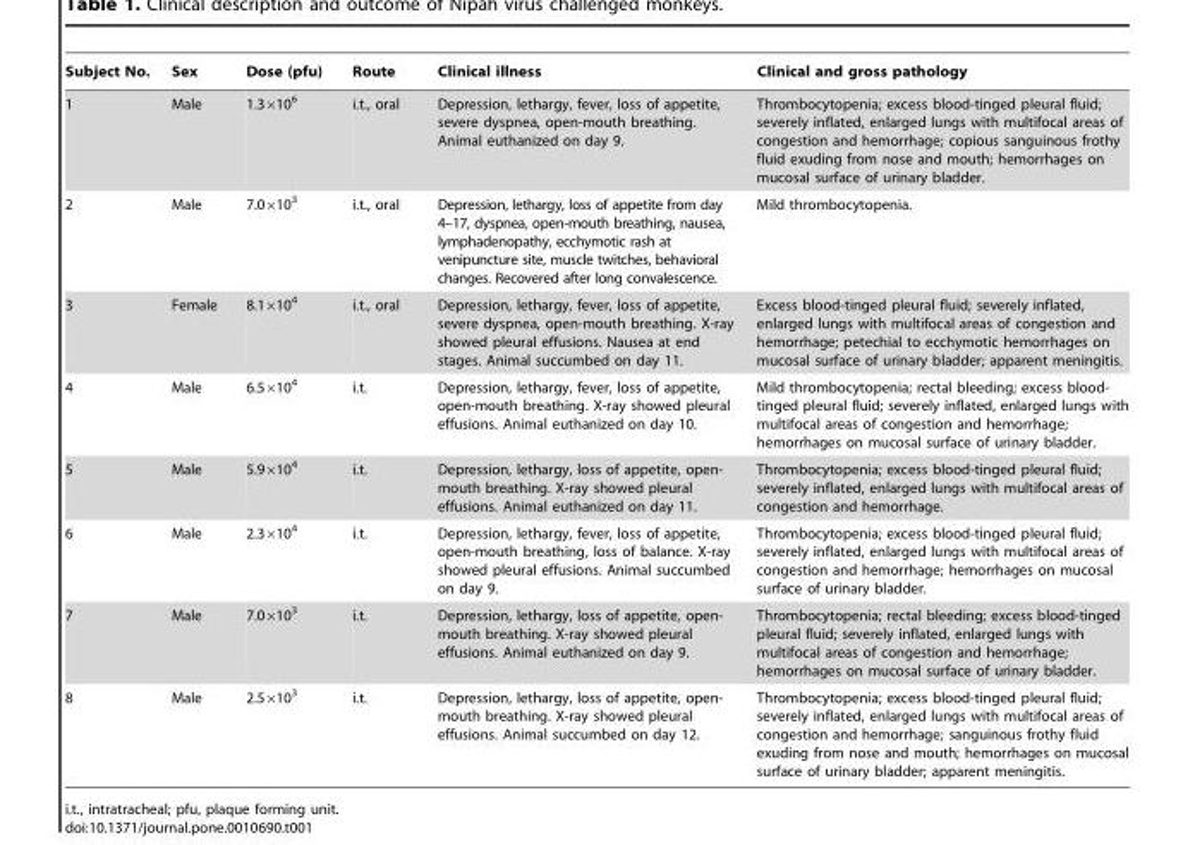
<table><thead><tr><td>Subject No.</td><td>Sex</td><td>Dose (pfu)</td><td>Route</td><td>Clinical illness</td><td>Clinical and gross pathology</td></tr></thead><tbody><tr><td>1</td><td>Male</td><td>1.3×10<sup>6</sup></td><td>i.t., oral</td><td>Depression, lethargy, fever, loss of appetite, severe dyspnea, open-mouth breathing. Animal euthanized on day 9.</td><td>Thrombocytopenia; excess blood-tinged pleural fluid; severely inflated, enlarged lungs with multifocal areas of congestion and hemorrhage; copious sanguinous frothy fluid exuding from nose and mouth; hemorrhages on mucosal surface of urinary bladder.</td></tr><tr><td>2</td><td>Male</td><td>7.0×10<sup>3</sup></td><td>i.t., oral</td><td>Depression, lethargy, loss of appetite from day 4–17, dyspnea, open-mouth breathing, nausea, lymphadenopathy, ecchymotic rash at venipuncture site, muscle twitches, behavioral changes. Recovered after long convalescence.</td><td>Mild thrombocytopenia.</td></tr><tr><td>3</td><td>Female</td><td>8.1×10<sup>4</sup></td><td>i.t., oral</td><td>Depression, lethargy, fever, loss of appetite, severe dyspnea, open-mouth breathing. X-ray showed pleural effusions. Nausea at end stages. Animal succumbed on day 11.</td><td>Excess blood-tinged pleural fluid; severely inflated, enlarged lungs with multifocal areas of congestion and hemorrhage; petechial to ecchymotic hemorrhages on mucosal surface of urinary bladder; apparent meningitis.</td></tr><tr><td>4</td><td>Male</td><td>6.5×10<sup>4</sup></td><td>i.t.</td><td>Depression, lethargy, fever, loss of appetite, open-mouth breathing. X-ray showed pleural effusions. Animal euthanized on day 10.</td><td>Mild thrombocytopenia; rectal bleeding; excess blood- tinged pleural fluid; severely inflated, enlarged lungs with multifocal areas of congestion and hemorrhage; hemorrhages on mucosal surface of urinary bladder.</td></tr><tr><td>5</td><td>Male</td><td>5.9×10<sup>4</sup></td><td>i.t.</td><td>Depression, lethargy, loss of appetite, open- mouth breathing. X-ray showed pleural effusions. Animal euthanized on day 11.</td><td>Thrombocytopenia; excess blood-tinged pleural fluid; severely inflated, enlarged lungs with multifocal areas of congestion and hemorrhage.</td></tr><tr><td>6</td><td>Male</td><td>2.3×10<sup>4</sup></td><td>i.t.</td><td>Depression, lethargy, fever, loss of appetite, open-mouth breathing, loss of balance. X-ray showed pleural effusions. Animal succumbed on day 9.</td><td>Thrombocytopenia; excess blood-tinged pleural fluid; severely inflated, enlarged lungs with multifocal areas of congestion and hemorrhage; hemorrhages on mucosal surface of urinary bladder.</td></tr><tr><td>7</td><td>Male</td><td>7.0×10<sup>3</sup></td><td>i.t.</td><td>Depression, lethargy, loss of appetite, open- mouth breathing. X-ray showed pleural effusions. Animal euthanized on day 9.</td><td>Thrombocytopenia; rectal bleeding; excess blood-tinged pleural fluid; severely inflated, enlarged lungs with multifocal areas of congestion and hemorrhage; hemorrhages on mucosal surface of urinary bladder.</td></tr><tr><td>8</td><td>Male</td><td>2.5×10<sup>3</sup></td><td>i.t.</td><td>Depression, lethargy, loss of appetite, open- mouth breathing. X-ray showed pleural effusions. Animal succumbed on day 12.</td><td>Thrombocytopenia; excess blood-tinged pleural fluid; severely inflated, enlarged lungs with multifocal areas of congestion and hemorrhage; sanguinous frothy fluid exuding from nose and mouth; hemorrhages on mucosal surface of urinary bladder; apparent meningitis.</td></tr></tbody></table>